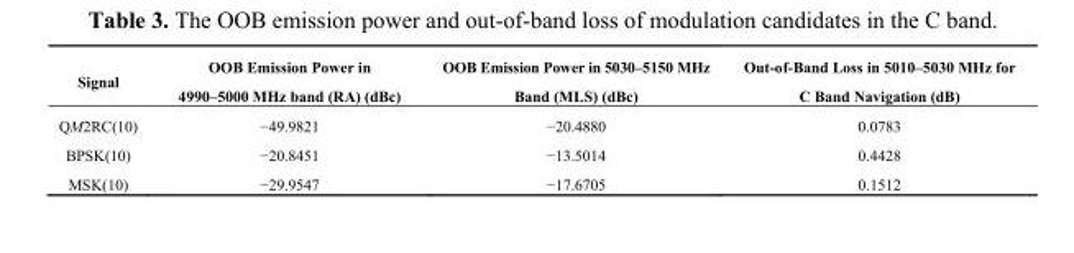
<table><thead><tr><td>Signal</td><td>OOB Emission Power in 4990–5000 MHz band (RA) (dBc)</td><td>OOB Emission Power in 5030–5150 MHz Band (MLS) (dBc)</td><td>Out-of-Band Loss in 5010–5030 MHz for C Band Navigation (dB)</td></tr></thead><tbody><tr><td>QM2RC(10)</td><td>−49.9821</td><td>−20.4880</td><td>0.0783</td></tr><tr><td>BPSK(10)</td><td>−20.8451</td><td>−13.5014</td><td>0.4428</td></tr><tr><td>MSK(10)</td><td>−29.9547</td><td>−17.6705</td><td>0.1512</td></tr></tbody></table>